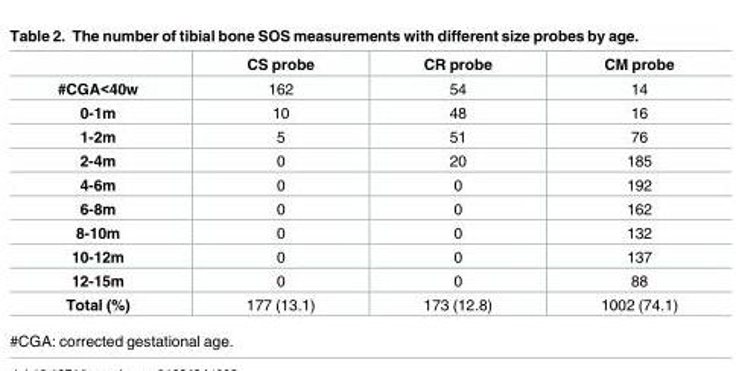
<table><thead><tr><td></td><td>CS probe</td><td>CR probe</td><td>CM probe</td></tr></thead><tbody><tr><td>#CGA&lt;40w</td><td>162</td><td>54</td><td>14</td></tr><tr><td>0-1m</td><td>10</td><td>48</td><td>16</td></tr><tr><td>1-2m</td><td>5</td><td>51</td><td>76</td></tr><tr><td>2-4m</td><td>0</td><td>20</td><td>185</td></tr><tr><td>4-6m</td><td>0</td><td>0</td><td>192</td></tr><tr><td>6-8m</td><td>0</td><td>0</td><td>162</td></tr><tr><td>8-10m</td><td>0</td><td>0</td><td>132</td></tr><tr><td>10-12m</td><td>0</td><td>0</td><td>137</td></tr><tr><td>12-15m</td><td>0</td><td>0</td><td>88</td></tr><tr><td>Total (%)</td><td>177 (13.1)</td><td>173 (12.8)</td><td>1002 (74.1)</td></tr></tbody></table>